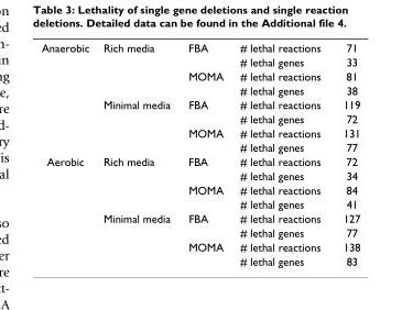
<table><tbody><tr><td rowspan="8">Anaerobic</td><td>Rich media</td><td>FBA</td><td># lethal reactions</td><td>71</td></tr><tr><td></td><td></td><td># lethal genes</td><td>33</td></tr><tr><td></td><td>MOMA</td><td># lethal reactions</td><td>81</td></tr><tr><td></td><td></td><td># lethal genes</td><td>38</td></tr><tr><td>Minimal media</td><td>FBA</td><td># lethal reactions</td><td>119</td></tr><tr><td></td><td></td><td># lethal genes</td><td>72</td></tr><tr><td></td><td>MOMA</td><td># lethal reactions</td><td>131</td></tr><tr><td></td><td></td><td># lethal genes</td><td>77</td></tr><tr><td rowspan="8">Aerobic</td><td>Rich media</td><td>FBA</td><td># lethal reactions</td><td>72</td></tr><tr><td></td><td></td><td># lethal genes</td><td>34</td></tr><tr><td></td><td>MOMA</td><td># lethal reactions</td><td>84</td></tr><tr><td></td><td></td><td># lethal genes</td><td>41</td></tr><tr><td>Minimal media</td><td>FBA</td><td># lethal reactions</td><td>127</td></tr><tr><td></td><td></td><td># lethal genes</td><td>77</td></tr><tr><td></td><td>MOMA</td><td># lethal reactions</td><td>138</td></tr><tr><td></td><td></td><td># lethal genes</td><td>83</td></tr></tbody></table>